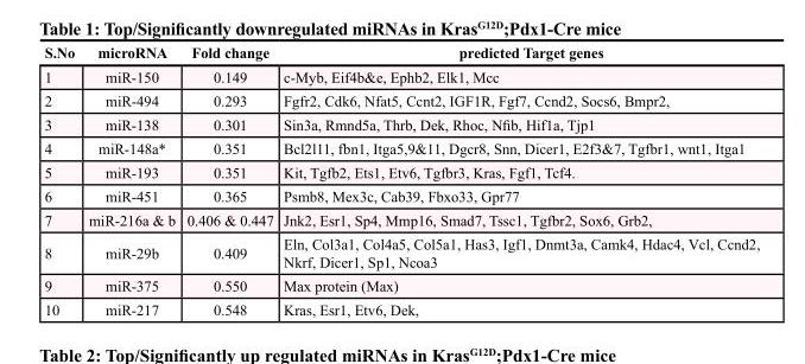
<table><thead><tr><td>S.No</td><td>microRNA</td><td>Fold change</td><td>predicted Target genes</td></tr></thead><tbody><tr><td>1</td><td>miR-150</td><td>0.149</td><td>c-Myb, Eif4b&amp;e, Ephb2, Elk1, Mcc</td></tr><tr><td>2</td><td>miR-494</td><td>0.293</td><td>Fgfr2, Cdk6, Nfat5, Ccnt2, IGF1R, Fgf7, Ccnd2, Socs6, Bmpr2,</td></tr><tr><td>3</td><td>miR-138</td><td>0.301</td><td>Sin3a, Rmnd5a, Thrb, Dek, Rhoc, Nfib, Hif1a, Tjp1</td></tr><tr><td>4</td><td>miR-148a*</td><td>0.351</td><td>Bcl2l11, fbn1, Itga5,9&amp;11, Dgcr8, Snn, Dicer1, E2f3&amp;7, Tgfbr1, wnt1, Itga1</td></tr><tr><td>5</td><td>miR-193</td><td>0.351</td><td>Kit, Tgfb2, Ets1, Etv6, Tgfbr3, Kras, Fgf1, Tcf4.</td></tr><tr><td>6</td><td>miR-451</td><td>0.365</td><td>Psmb8, Mex3c, Cab39, Fbxo33, Gpr77</td></tr><tr><td>7</td><td>miR-216a &amp; b</td><td>0.406 &amp; 0.447</td><td>Jnk2, Esr1, Sp4, Mmp16, Smad7, Tssc1, Tgfbr2, Sox6, Grb2,</td></tr><tr><td>8</td><td>miR-29b</td><td>0.409</td><td>Eln, Col3a1, Col4a5, Col5a1, Has3, Igf1, Dnmt3a, Camk4, Hdac4, Vcl, Ccnd2, Nkrf, Dicer1, Sp1, Ncoa3</td></tr><tr><td>9</td><td>miR-375</td><td>0.550</td><td>Max protein (Max)</td></tr><tr><td>10</td><td>miR-217</td><td>0.548</td><td>Kras, Esr1, Etv6, Dek,</td></tr></tbody></table>